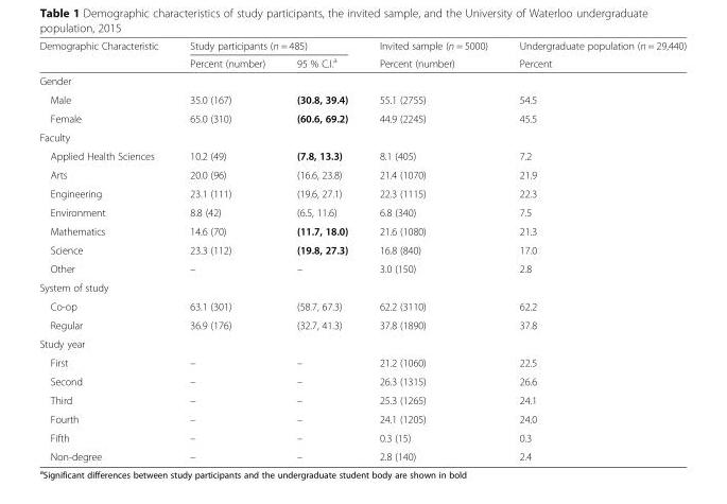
<table><thead><tr><td rowspan="2">Demographic Characteristic</td><td colspan="2">Study participants (n = 485)</td><td rowspan="2">Invited sample (n = 5000) Percent (number)</td><td rowspan="2">Undergraduate population (n = 29,440) Percent</td></tr><tr><td>Percent (number)</td><td>95 % C.I.<sup>a</sup></td></tr></thead><tbody><tr><td colspan="5">Gender</td></tr><tr><td>Male</td><td>35.0 (167)</td><td>(30.8, 39.4)</td><td>55.1 (2755)</td><td>54.5</td></tr><tr><td>Female</td><td>65.0 (310)</td><td>(60.6, 69.2)</td><td>44.9 (2245)</td><td>45.5</td></tr><tr><td colspan="5">Faculty</td></tr><tr><td>Applied Health Sciences</td><td>10.2 (49)</td><td>(7.8, 13.3)</td><td>8.1 (405)</td><td>7.2</td></tr><tr><td>Arts</td><td>20.0 (96)</td><td>(16.6, 23.8)</td><td>21.4 (1070)</td><td>21.9</td></tr><tr><td>Engineering</td><td>23.1 (111)</td><td>(19.6, 27.1)</td><td>22.3 (1115)</td><td>22.3</td></tr><tr><td>Environment</td><td>8.8 (42)</td><td>(6.5, 11.6)</td><td>6.8 (340)</td><td>7.5</td></tr><tr><td>Mathematics</td><td>14.6 (70)</td><td>(11.7, 18.0)</td><td>21.6 (1080)</td><td>21.3</td></tr><tr><td>Science</td><td>23.3 (112)</td><td>(19.8, 27.3)</td><td>16.8 (840)</td><td>17.0</td></tr><tr><td>Other</td><td>–</td><td>–</td><td>3.0 (150)</td><td>2.8</td></tr><tr><td colspan="5">System of study</td></tr><tr><td>Co-op</td><td>63.1 (301)</td><td>(58.7, 67.3)</td><td>62.2 (3110)</td><td>62.2</td></tr><tr><td>Regular</td><td>36.9 (176)</td><td>(32.7, 41.3)</td><td>37.8 (1890)</td><td>37.8</td></tr><tr><td colspan="5">Study year</td></tr><tr><td>First</td><td>–</td><td>–</td><td>21.2 (1060)</td><td>22.5</td></tr><tr><td>Second</td><td>–</td><td>–</td><td>26.3 (1315)</td><td>26.6</td></tr><tr><td>Third</td><td>–</td><td>–</td><td>25.3 (1265)</td><td>24.1</td></tr><tr><td>Fourth</td><td>–</td><td>–</td><td>24.1 (1205)</td><td>24.0</td></tr><tr><td>Fifth</td><td>–</td><td>–</td><td>0.3 (15)</td><td>0.3</td></tr><tr><td>Non-degree</td><td>–</td><td>–</td><td>2.8 (140)</td><td>2.4</td></tr></tbody></table>